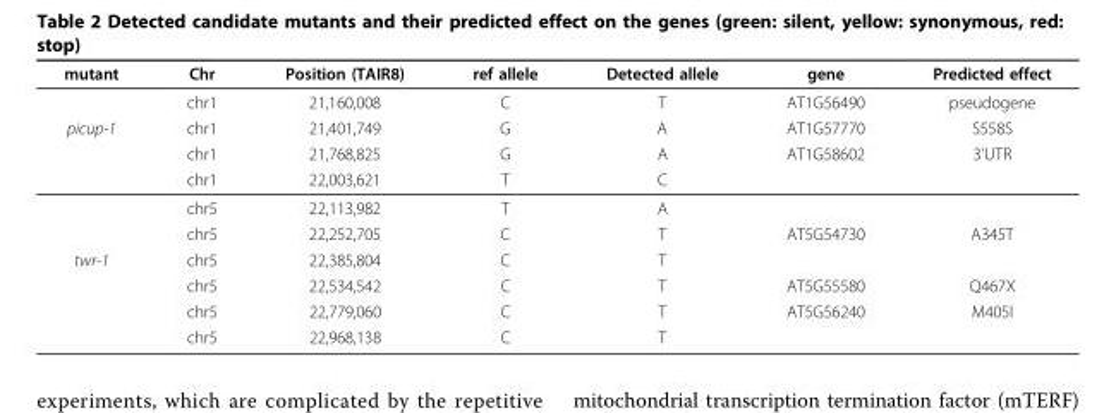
<table><thead><tr><td>mutant</td><td>Chr</td><td>Position (TAIR8)</td><td>ref allele</td><td>Detected allele</td><td>gene</td><td>Predicted effect</td></tr></thead><tbody><tr><td></td><td>chr1</td><td>21,160,008</td><td>C</td><td>T</td><td>AT1G56490</td><td>pseudogene</td></tr><tr><td rowspan="5">picup-1</td><td>chr1</td><td>21,401,749</td><td>G</td><td>A</td><td>AT1G57770</td><td>S558S</td></tr><tr><td>chr1</td><td>21,768,825</td><td>G</td><td>A</td><td>AT1G58602</td><td>3’UTR</td></tr><tr><td>chr1</td><td>22,003,621</td><td>T</td><td>C</td><td></td><td></td></tr><tr><td>chr5</td><td>22,113,982</td><td>T</td><td>A</td><td></td><td></td></tr><tr><td>chr5</td><td>22,252,705</td><td>C</td><td>T</td><td>AT5G54730</td><td>A345T</td></tr><tr><td rowspan="4">twr-1</td><td>chr5</td><td>22,385,804</td><td>C</td><td>T</td><td></td><td></td></tr><tr><td>chr5</td><td>22,534,542</td><td>C</td><td>T</td><td>AT5G55580</td><td>Q467X</td></tr><tr><td>chr5</td><td>22,779,060</td><td>C</td><td>T</td><td>AT5G56240</td><td>M405I</td></tr><tr><td>chr5</td><td>22,968,138</td><td>C</td><td>T</td><td></td><td></td></tr></tbody></table>